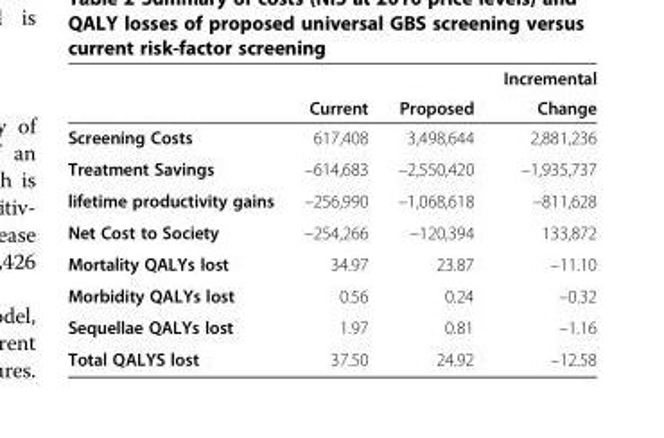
<table><thead><tr><td rowspan="2"></td><td rowspan="2">Current</td><td rowspan="2">Proposed</td><td rowspan="2">Incremental Change</td></tr><tr></tr></thead><tbody><tr><td>Screening Costs</td><td>617,408</td><td>3,498,644</td><td>2,881,236</td></tr><tr><td>Treatment Savings</td><td>–614,683</td><td>–2,550,420</td><td>–1,935,737</td></tr><tr><td>lifetime productivity gains</td><td>–256,990</td><td>–1,068,618</td><td>–811,628</td></tr><tr><td>Net Cost to Society</td><td>–254,266</td><td>–120,394</td><td>133,872</td></tr><tr><td>Mortality QALYs lost</td><td>34.97</td><td>23.87</td><td>–11.10</td></tr><tr><td>Morbidity QALYs lost</td><td>0.56</td><td>0.24</td><td>–0.32</td></tr><tr><td>Sequellae QALYs lost</td><td>1.97</td><td>0.81</td><td>–1.16</td></tr><tr><td>Total QALYS lost</td><td>37.50</td><td>24.92</td><td>–12.58</td></tr></tbody></table>